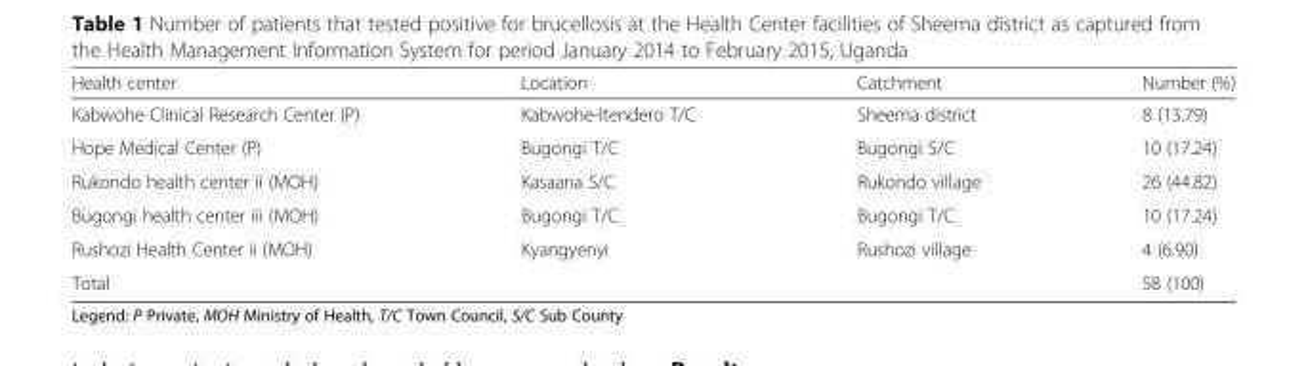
<table><thead><tr><td>Health center</td><td>Location</td><td>Catchment</td><td>Number (%)</td></tr></thead><tbody><tr><td>Kabwohe Clinical Research Center (P)</td><td>Kabwohe-Itendero T/C</td><td>Sheema district</td><td>8 (13.79)</td></tr><tr><td>Hope Medical Center (P)</td><td>Bugongi T/C</td><td>Bugongi S/C</td><td>10 (17.24)</td></tr><tr><td>Rukondo health center ii (MOH)</td><td>Kasaana S/C</td><td>Rukondo village</td><td>26 (44.82)</td></tr><tr><td>Bugongi health center iii (MOH)</td><td>Bugongi T/C</td><td>Bugongi T/C</td><td>10 (17.24)</td></tr><tr><td>Rushozi Health Center ii (MOH)</td><td>Kyangyenyi</td><td>Rushozi village</td><td>4 (6.90)</td></tr><tr><td>Total</td><td></td><td></td><td>58 (100)</td></tr></tbody></table>